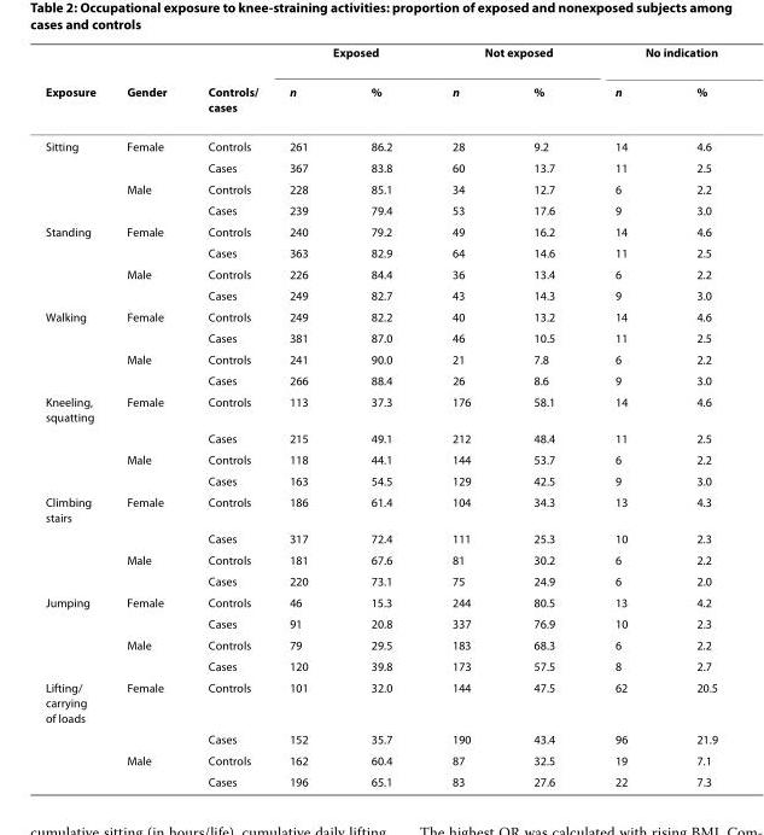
<table><thead><tr><td rowspan="2">Exposure</td><td rowspan="2">Gender</td><td rowspan="2">Controls/ cases</td><td colspan="2">Exposed</td><td colspan="2">Not exposed</td><td colspan="2">No indication</td></tr><tr><td>n</td><td>%</td><td>n</td><td>%</td><td>n</td><td>%</td></tr></thead><tbody><tr><td rowspan="4">Sitting</td><td>Female</td><td>Controls</td><td>261</td><td>86.2</td><td>28</td><td>9.2</td><td>14</td><td>4.6</td></tr><tr><td></td><td>Cases</td><td>367</td><td>83.8</td><td>60</td><td>13.7</td><td>11</td><td>2.5</td></tr><tr><td>Male</td><td>Controls</td><td>228</td><td>85.1</td><td>34</td><td>12.7</td><td>6</td><td>2.2</td></tr><tr><td></td><td>Cases</td><td>239</td><td>79.4</td><td>53</td><td>17.6</td><td>9</td><td>3.0</td></tr><tr><td rowspan="4">Standing</td><td>Female</td><td>Controls</td><td>240</td><td>79.2</td><td>49</td><td>16.2</td><td>14</td><td>4.6</td></tr><tr><td></td><td>Cases</td><td>363</td><td>82.9</td><td>64</td><td>14.6</td><td>11</td><td>2.5</td></tr><tr><td>Male</td><td>Controls</td><td>226</td><td>84.4</td><td>36</td><td>13.4</td><td>6</td><td>2.2</td></tr><tr><td></td><td>Cases</td><td>249</td><td>82.7</td><td>43</td><td>14.3</td><td>9</td><td>3.0</td></tr><tr><td rowspan="4">Walking</td><td>Female</td><td>Controls</td><td>249</td><td>82.2</td><td>40</td><td>13.2</td><td>14</td><td>4.6</td></tr><tr><td></td><td>Cases</td><td>381</td><td>87.0</td><td>46</td><td>10.5</td><td>11</td><td>2.5</td></tr><tr><td>Male</td><td>Controls</td><td>241</td><td>90.0</td><td>21</td><td>7.8</td><td>6</td><td>2.2</td></tr><tr><td></td><td>Cases</td><td>266</td><td>88.4</td><td>26</td><td>8.6</td><td>9</td><td>3.0</td></tr><tr><td rowspan="4">Kneeling, squatting</td><td>Female</td><td>Controls</td><td>113</td><td>37.3</td><td>176</td><td>58.1</td><td>14</td><td>4.6</td></tr><tr><td></td><td>Cases</td><td>215</td><td>49.1</td><td>212</td><td>48.4</td><td>11</td><td>2.5</td></tr><tr><td>Male</td><td>Controls</td><td>118</td><td>44.1</td><td>144</td><td>53.7</td><td>6</td><td>2.2</td></tr><tr><td></td><td>Cases</td><td>163</td><td>54.5</td><td>129</td><td>42.5</td><td>9</td><td>3.0</td></tr><tr><td rowspan="4">Climbing stairs</td><td>Female</td><td>Controls</td><td>186</td><td>61.4</td><td>104</td><td>34.3</td><td>13</td><td>4.3</td></tr><tr><td></td><td>Cases</td><td>317</td><td>72.4</td><td>111</td><td>25.3</td><td>10</td><td>2.3</td></tr><tr><td>Male</td><td>Controls</td><td>181</td><td>67.6</td><td>81</td><td>30.2</td><td>6</td><td>2.2</td></tr><tr><td></td><td>Cases</td><td>220</td><td>73.1</td><td>75</td><td>24.9</td><td>6</td><td>2.0</td></tr><tr><td rowspan="4">Jumping</td><td>Female</td><td>Controls</td><td>46</td><td>15.3</td><td>244</td><td>80.5</td><td>13</td><td>4.2</td></tr><tr><td></td><td>Cases</td><td>91</td><td>20.8</td><td>337</td><td>76.9</td><td>10</td><td>2.3</td></tr><tr><td>Male</td><td>Controls</td><td>79</td><td>29.5</td><td>183</td><td>68.3</td><td>6</td><td>2.2</td></tr><tr><td></td><td>Cases</td><td>120</td><td>39.8</td><td>173</td><td>57.5</td><td>8</td><td>2.7</td></tr><tr><td rowspan="4">Lifting/ carrying of loads</td><td>Female</td><td>Controls</td><td>101</td><td>32.0</td><td>144</td><td>47.5</td><td>62</td><td>20.5</td></tr><tr><td></td><td>Cases</td><td>152</td><td>35.7</td><td>190</td><td>43.4</td><td>96</td><td>21.9</td></tr><tr><td>Male</td><td>Controls</td><td>162</td><td>60.4</td><td>87</td><td>32.5</td><td>19</td><td>7.1</td></tr><tr><td></td><td>Cases</td><td>196</td><td>65.1</td><td>83</td><td>27.6</td><td>22</td><td>7.3</td></tr></tbody></table>